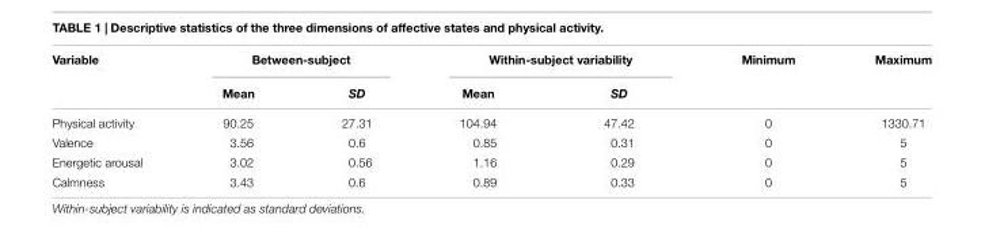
<table><thead><tr><td rowspan="2">Variable</td><td colspan="2">Between-subject</td><td colspan="2">Within-subject variability</td><td rowspan="2">Minimum</td><td rowspan="2">Maximum</td></tr><tr><td>Mean</td><td>SD</td><td>Mean</td><td>SD</td></tr></thead><tbody><tr><td>Physical activity</td><td>90.25</td><td>27.31</td><td>104.94</td><td>47.42</td><td>0</td><td>1330.71</td></tr><tr><td>Valence</td><td>3.56</td><td>0.6</td><td>0.85</td><td>0.31</td><td>0</td><td>5</td></tr><tr><td>Energetic arousal</td><td>3.02</td><td>0.56</td><td>1.16</td><td>0.29</td><td>0</td><td>5</td></tr><tr><td>Calmness</td><td>3.43</td><td>0.6</td><td>0.89</td><td>0.33</td><td>0</td><td>5</td></tr></tbody></table>